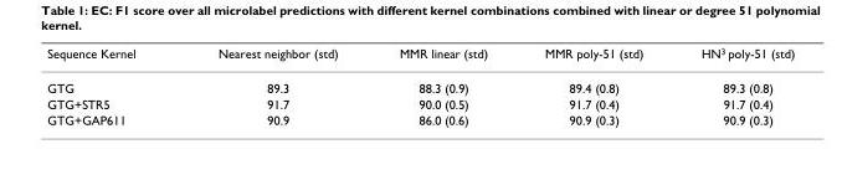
<table><thead><tr><td>Sequence Kernel</td><td>Nearest neighbor (std)</td><td>MMR linear (std)</td><td>MMR poly-51 (std)</td><td>HN<sup>3</sup> poly-51 (std)</td></tr></thead><tbody><tr><td>GTG</td><td>89.3</td><td>88.3 (0.9)</td><td>89.4 (0.8)</td><td>89.3 (0.8)</td></tr><tr><td>GTG+STR5</td><td>91.7</td><td>90.0 (0.5)</td><td>91.7 (0.4)</td><td>91.7 (0.4)</td></tr><tr><td>GTG+GAP611</td><td>90.9</td><td>86.0 (0.6)</td><td>90.9 (0.3)</td><td>90.9 (0.3)</td></tr></tbody></table>